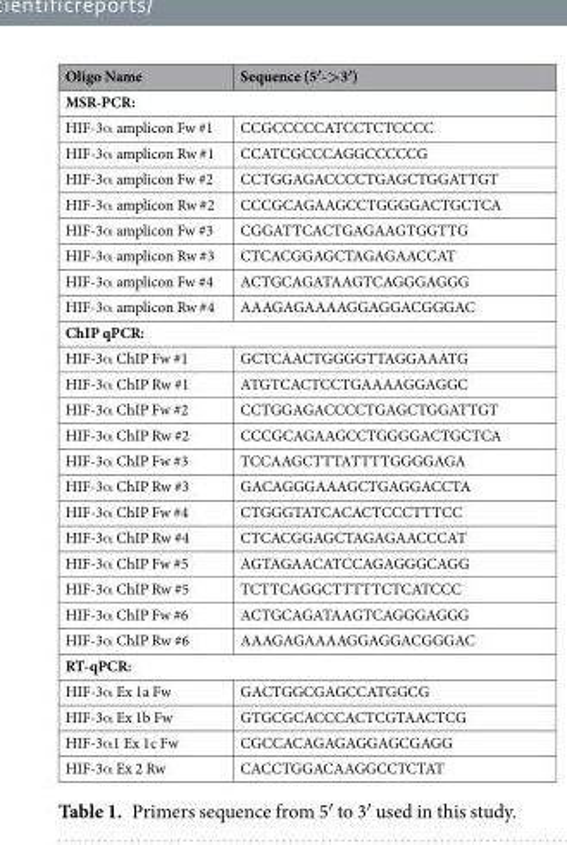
<table><thead><tr><td>Oligo Name</td><td>Sequence (5′-&gt;3′)</td></tr></thead><tbody><tr><td colspan="2">MSR-PCR:</td></tr><tr><td>HIF-3α amplicon Fw #1</td><td>CCGCCCCCATCCTCTCCCC</td></tr><tr><td>HIF-3α amplicon Rw #1</td><td>CCATCGCCCAGGCCCCCG</td></tr><tr><td>HIF-3α amplicon Fw #2</td><td>CCTGGAGACCCCTGAGCTGGATTGT</td></tr><tr><td>HIF-3α amplicon Rw #2</td><td>CCCGCAGAAGCCTGGGGACTGCTCA</td></tr><tr><td>HIF-3α amplicon Fw #3</td><td>CGGATTCACTGAGAAGTGGTTG</td></tr><tr><td>HIF-3α amplicon Rw #3</td><td>CTCACGGAGCTAGAGAACCAT</td></tr><tr><td>HIF-3α amplicon Fw #4</td><td>ACTGCAGATAAGTCAGGGAGGG</td></tr><tr><td>HIF-3α amplicon Rw #4</td><td>AAAGAGAAAAGGAGGACGGGAC</td></tr><tr><td colspan="2">ChIP qPCR:</td></tr><tr><td>HIF-3α ChIP Fw #1</td><td>GCTCAACTGGGGTTAGGAAATG</td></tr><tr><td>HIF-3α ChIP Rw #1</td><td>ATGTCACTCCTGAAAAGGAGGC</td></tr><tr><td>HIF-3α ChIP Fw #2</td><td>CCTGGAGACCCCTGAGCTGGATTGT</td></tr><tr><td>HIF-3α ChIP Rw #2</td><td>CCCGCAGAAGCCTGGGGACTGCTCA</td></tr><tr><td>HIF-3α ChIP Fw #3</td><td>TCCAAGCTTTATTTTGGGGAGA</td></tr><tr><td>HIF-3α ChIP Rw #3</td><td>GACAGGGAAAGCTGAGGACCTA</td></tr><tr><td>HIF-3α ChIP Fw #4</td><td>CTGGGTATCACACTCCCTTTCC</td></tr><tr><td>HIF-3α ChIP Rw #4</td><td>CTCACGGAGCTAGAGAACCCAT</td></tr><tr><td>HIF-3α ChIP Fw #5</td><td>AGTAGAACATCCAGAGGGCAGG</td></tr><tr><td>HIF-3α ChIP Rw #5</td><td>TCTTCAGGCTTTTTCTCATCCC</td></tr><tr><td>HIF-3α ChIP Fw #6</td><td>ACTGCAGATAAGTCAGGGAGGG</td></tr><tr><td>HIF-3α ChIP Rw #6</td><td>AAAGAGAAAAGGAGGACGGGAC</td></tr><tr><td colspan="2">RT-qPCR:</td></tr><tr><td>HIF-3α Ex 1a Fw</td><td>GACTGGCGAGCCATGGCG</td></tr><tr><td>HIF-3α Ex 1b Fw</td><td>GTGCGCACCCACTCGTAACTCG</td></tr><tr><td>HIF-3α1 Ex 1c Fw</td><td>CGCCACAGAGAGGAGCGAGG</td></tr><tr><td>HIF-3α Ex 2 Rw</td><td>CACCTGGACAAGGCCTCTAT</td></tr></tbody></table>